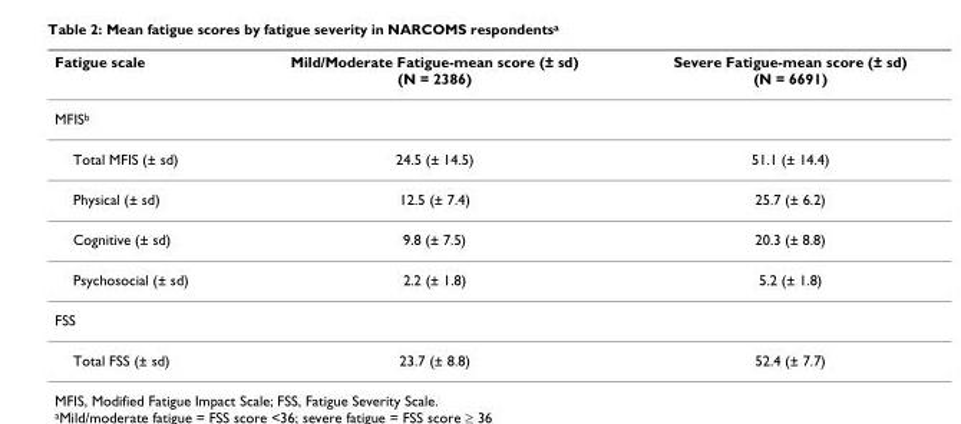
<table><thead><tr><td>Fatigue scale</td><td>Mild/Moderate Fatigue-mean score (± sd) (N = 2386)</td><td>Severe Fatigue-mean score (± sd) (N = 6691)</td></tr></thead><tbody><tr><td colspan="3">MFIS<sup>b</sup></td></tr><tr><td>Total MFIS (± sd)</td><td>24.5 (± 14.5)</td><td>51.1 (± 14.4)</td></tr><tr><td>Physical (± sd)</td><td>12.5 (± 7.4)</td><td>25.7 (± 6.2)</td></tr><tr><td>Cognitive (± sd)</td><td>9.8 (± 7.5)</td><td>20.3 (± 8.8)</td></tr><tr><td>Psychosocial (± sd)</td><td>2.2 (± 1.8)</td><td>5.2 (± 1.8)</td></tr><tr><td colspan="3">FSS</td></tr><tr><td>Total FSS (± sd)</td><td>23.7 (± 8.8)</td><td>52.4 (± 7.7)</td></tr></tbody></table>